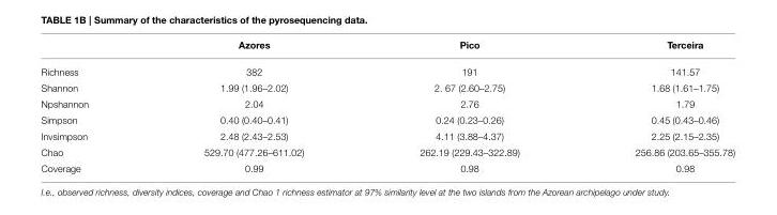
<table><thead><tr><td></td><td>Azores</td><td>Pico</td><td>Terceira</td></tr></thead><tbody><tr><td>Richness</td><td>382</td><td>191</td><td>141.57</td></tr><tr><td>Shannon</td><td>1.99 (1.96–2.02)</td><td>2. 67 (2.60–2.75)</td><td>1.68 (1.61–1.75)</td></tr><tr><td>Npshannon</td><td>2.04</td><td>2.76</td><td>1.79</td></tr><tr><td>Simpson</td><td>0.40 (0.40–0.41)</td><td>0.24 (0.23–0.26)</td><td>0.45 (0.43–0.46)</td></tr><tr><td>Invsimpson</td><td>2.48 (2.43–2.53)</td><td>4.11 (3.88–4.37)</td><td>2.25 (2.15–2.35)</td></tr><tr><td>Chao</td><td>529.70 (477.26–611.02)</td><td>262.19 (229.43–322.89)</td><td>256.86 (203.65–355.78)</td></tr><tr><td>Coverage</td><td>0.99</td><td>0.98</td><td>0.98</td></tr></tbody></table>